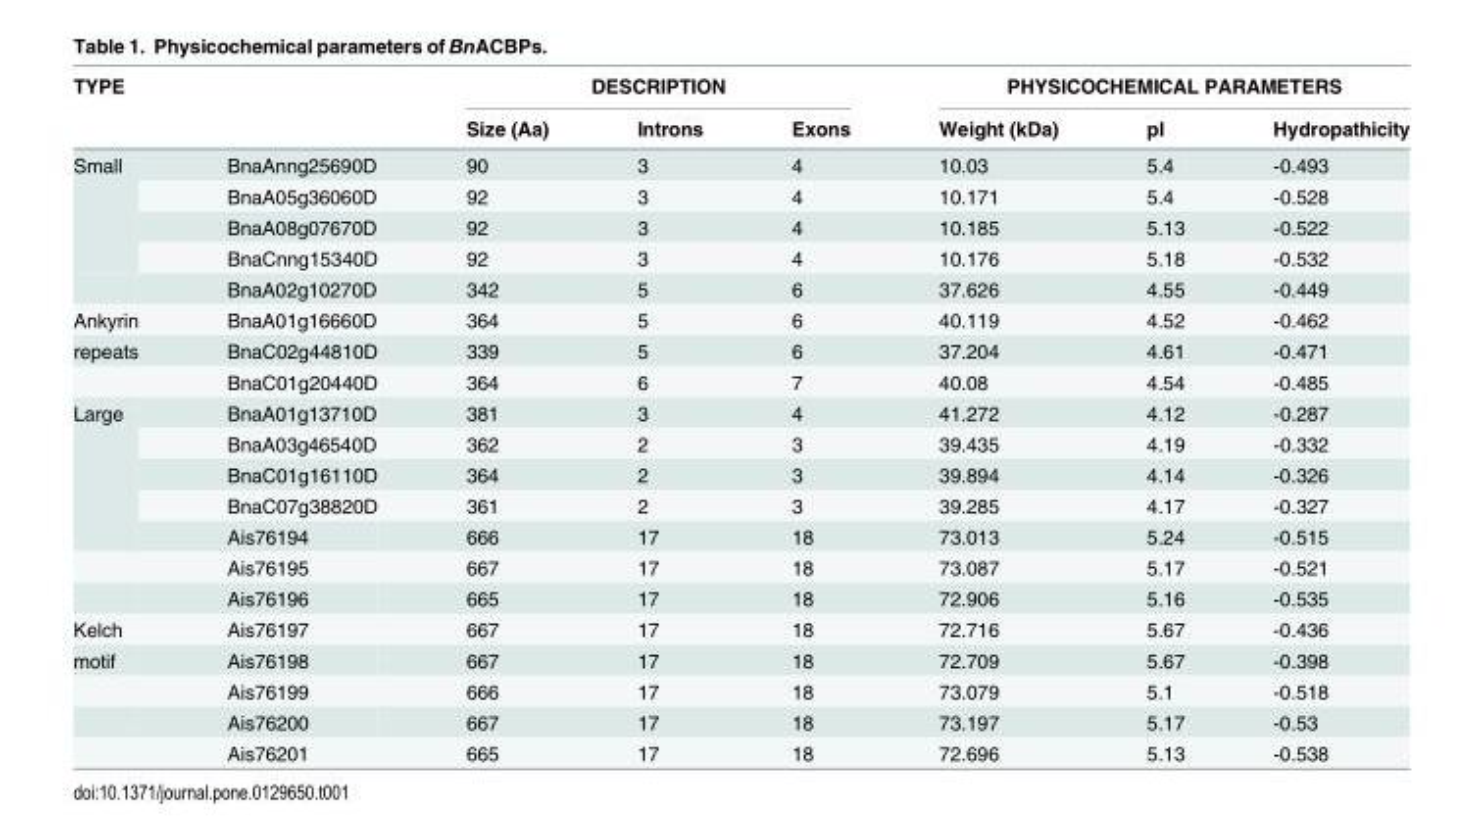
<table><thead><tr><td rowspan="2">TYPE</td><td rowspan="2"></td><td colspan="3">DESCRIPTION</td><td colspan="3">PHYSICOCHEMICAL PARAMETERS</td></tr><tr><td>Size (Aa)</td><td>Introns</td><td>Exons</td><td>Weight (kDa)</td><td>pI</td><td>Hydropathicity</td></tr></thead><tbody><tr><td rowspan="5">Small</td><td>BnaAnng25690D</td><td>90</td><td>3</td><td>4</td><td>10.03</td><td>5.4</td><td>-0.493</td></tr><tr><td>BnaA05g36060D</td><td>92</td><td>3</td><td>4</td><td>10.171</td><td>5.4</td><td>-0.528</td></tr><tr><td>BnaA08g07670D</td><td>92</td><td>3</td><td>4</td><td>10.185</td><td>5.13</td><td>-0.522</td></tr><tr><td>BnaCnng15340D</td><td>92</td><td>3</td><td>4</td><td>10.176</td><td>5.18</td><td>-0.532</td></tr><tr><td>BnaA02g10270D</td><td>342</td><td>5</td><td>6</td><td>37.626</td><td>4.55</td><td>-0.449</td></tr><tr><td>Ankyrin</td><td>BnaA01g16660D</td><td>364</td><td>5</td><td>6</td><td>40.119</td><td>4.52</td><td>-0.462</td></tr><tr><td rowspan="2">repeats</td><td>BnaC02g44810D</td><td>339</td><td>5</td><td>6</td><td>37.204</td><td>4.61</td><td>-0.471</td></tr><tr><td>BnaC01g20440D</td><td>364</td><td>6</td><td>7</td><td>40.08</td><td>4.54</td><td>-0.485</td></tr><tr><td rowspan="7">Large</td><td>BnaA01g13710D</td><td>381</td><td>3</td><td>4</td><td>41.272</td><td>4.12</td><td>-0.287</td></tr><tr><td>BnaA03g46540D</td><td>362</td><td>2</td><td>3</td><td>39.435</td><td>4.19</td><td>-0.332</td></tr><tr><td>BnaC01g16110D</td><td>364</td><td>2</td><td>3</td><td>39.894</td><td>4.14</td><td>-0.326</td></tr><tr><td>BnaC07g38820D</td><td>361</td><td>2</td><td>3</td><td>39.285</td><td>4.17</td><td>-0.327</td></tr><tr><td>Ais76194</td><td>666</td><td>17</td><td>18</td><td>73.013</td><td>5.24</td><td>-0.515</td></tr><tr><td>Ais76195</td><td>667</td><td>17</td><td>18</td><td>73.087</td><td>5.17</td><td>-0.521</td></tr><tr><td>Ais76196</td><td>665</td><td>17</td><td>18</td><td>72.906</td><td>5.16</td><td>-0.535</td></tr><tr><td>Kelch</td><td>Ais76197</td><td>667</td><td>17</td><td>18</td><td>72.716</td><td>5.67</td><td>-0.436</td></tr><tr><td rowspan="4">motif</td><td>Ais76198</td><td>667</td><td>17</td><td>18</td><td>72.709</td><td>5.67</td><td>-0.398</td></tr><tr><td>Ais76199</td><td>666</td><td>17</td><td>18</td><td>73.079</td><td>5.1</td><td>-0.518</td></tr><tr><td>Ais76200</td><td>667</td><td>17</td><td>18</td><td>73.197</td><td>5.17</td><td>-0.53</td></tr><tr><td>Ais76201</td><td>665</td><td>17</td><td>18</td><td>72.696</td><td>5.13</td><td>-0.538</td></tr></tbody></table>